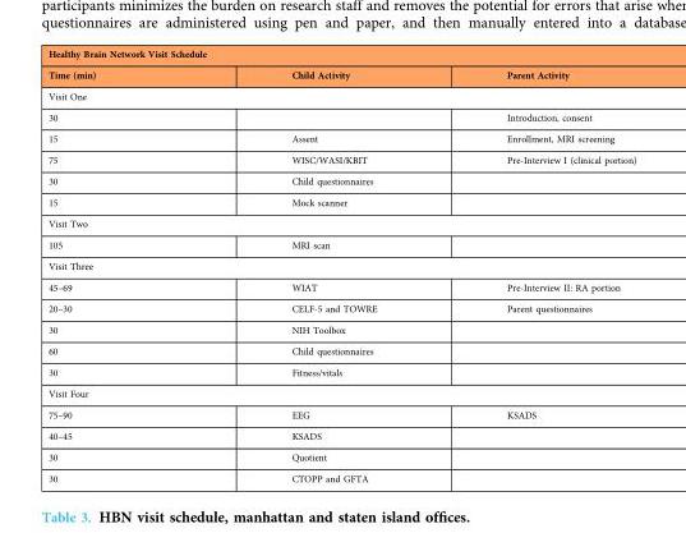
<table><thead><tr><td colspan="3">Healthy Brain Network Visit Schedule</td></tr><tr><td>Time (min)</td><td>Child Activity</td><td>Parent Activity</td></tr></thead><tbody><tr><td colspan="3">Visit One</td></tr><tr><td>30</td><td></td><td>Introduction, consent</td></tr><tr><td>15</td><td>Assent</td><td>Enrollment, MRI screening</td></tr><tr><td>75</td><td>WISC/WASI/KBIT</td><td>Pre-Interview I (clinical portion)</td></tr><tr><td>30</td><td>Child questionnaires</td><td></td></tr><tr><td>15</td><td>Mock scanner</td><td></td></tr><tr><td colspan="3">Visit Two</td></tr><tr><td>105</td><td>MRI scan</td><td></td></tr><tr><td colspan="3">Visit Three</td></tr><tr><td>45–69</td><td>WIAT</td><td>Pre-Interview II: RA portion</td></tr><tr><td>20–30</td><td>CELF-5 and TOWRE</td><td>Parent questionnaires</td></tr><tr><td>30</td><td>NIH Toolbox</td><td></td></tr><tr><td>60</td><td>Child questionnaires</td><td></td></tr><tr><td>30</td><td>Fitness/vitals</td><td></td></tr><tr><td colspan="3">Visit Four</td></tr><tr><td>75–90</td><td>EEG</td><td>KSADS</td></tr><tr><td>40–45</td><td>KSADS</td><td></td></tr><tr><td>30</td><td>Quotient</td><td></td></tr><tr><td>30</td><td>CTOPP and GFTA</td><td></td></tr></tbody></table>